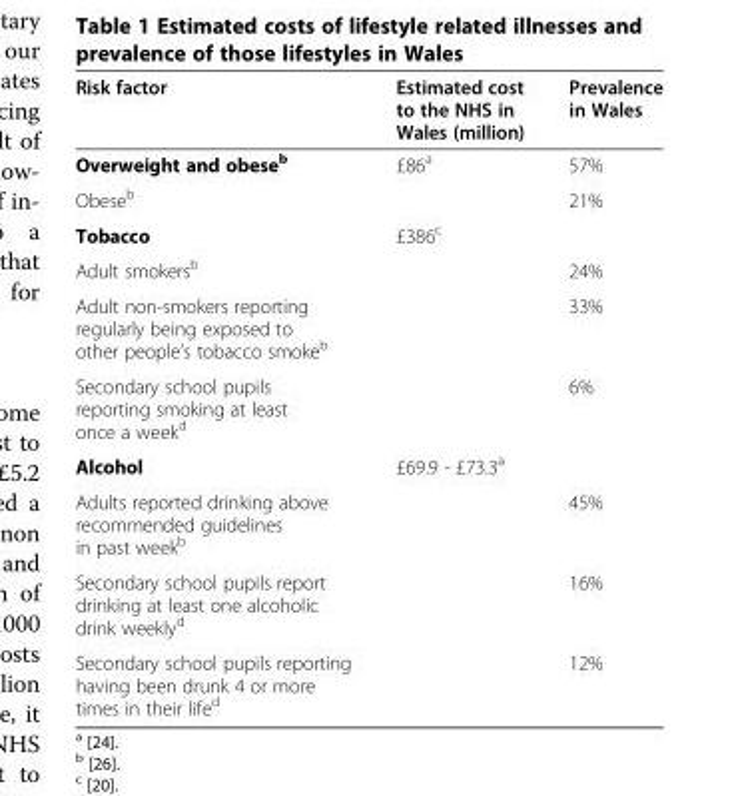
<table><thead><tr><td>Risk factor</td><td>Estimated cost to the NHS in Wales (million)</td><td>Prevalence in Wales</td></tr></thead><tbody><tr><td>Overweight and obese<sup>b</sup></td><td>£86<sup>a</sup></td><td>57%</td></tr><tr><td>Obese<sup>b</sup></td><td></td><td>21%</td></tr><tr><td>Tobacco</td><td>£386<sup>c</sup></td><td></td></tr><tr><td>Adult smokers<sup>b</sup></td><td></td><td>24%</td></tr><tr><td>Adult non-smokers reporting regularly being exposed to other people’s tobacco smoke<sup>b</sup></td><td></td><td>33%</td></tr><tr><td>Secondary school pupils reporting smoking at least once a week<sup>d</sup></td><td></td><td>6%</td></tr><tr><td>Alcohol</td><td>£69.9 - £73.3<sup>a</sup></td><td></td></tr><tr><td>Adults reported drinking above recommended guidelines in past week<sup>b</sup></td><td></td><td>45%</td></tr><tr><td>Secondary school pupils report drinking at least one alcoholic drink weekly<sup>d</sup></td><td></td><td>16%</td></tr><tr><td>Secondary school pupils reporting having been drunk 4 or more times in their life<sup>d</sup></td><td></td><td>12%</td></tr></tbody></table>